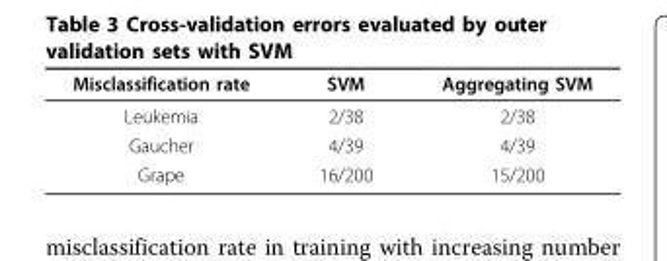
<table><thead><tr><td>Misclassification rate</td><td>SVM</td><td>Aggregating SVM</td></tr></thead><tbody><tr><td>Leukemia</td><td>2/38</td><td>2/38</td></tr><tr><td>Gaucher</td><td>4/39</td><td>4/39</td></tr><tr><td>Grape</td><td>16/200</td><td>15/200</td></tr></tbody></table>